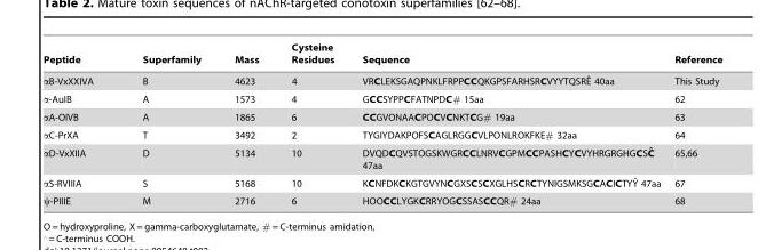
<table><thead><tr><td>Peptide</td><td>Superfamily</td><td>Mass</td><td>Cysteine Residues</td><td>Sequence</td><td>Reference</td></tr></thead><tbody><tr><td>αB-VxXXIVA</td><td>B</td><td>4623</td><td>4</td><td>VRCLEKSGAQPNKLFRPPCCQKGPSFARHSRCVYYTQSREˆ 40aa</td><td>This Study</td></tr><tr><td>α-AuIB</td><td>A</td><td>1573</td><td>4</td><td>GCCSYPPCFATNPDC# 15aa</td><td>62</td></tr><tr><td>αA-OIVB</td><td>A</td><td>1865</td><td>6</td><td>CCGVONAACPOCVCNKTCG# 19aa</td><td>63</td></tr><tr><td>αC-PrXA</td><td>T</td><td>3492</td><td>2</td><td>TYGIYDAKPOFSCAGLRGGCVLPONLROKFKE# 32aa</td><td>64</td></tr><tr><td>αD-VxXIIA</td><td>D</td><td>5134</td><td>10</td><td>DVQDCQVSTOGSKWGRCCLNRVCGPMCCPASHCYCVYHRGRGHGCSCˆ 47aa</td><td>65,66</td></tr><tr><td>αS-RVIIIA</td><td>S</td><td>5168</td><td>10</td><td>KCNFDKCKGTGVYNCGXSCSCXGLHSCRCTYNIGSMKSGCACICTYYˆ 47aa</td><td>67</td></tr><tr><td>ψ-PIIIE</td><td>M</td><td>2716</td><td>6</td><td>HOOCCLYGKCRRYOGCSSASCCQR# 24aa</td><td>68</td></tr></tbody></table>